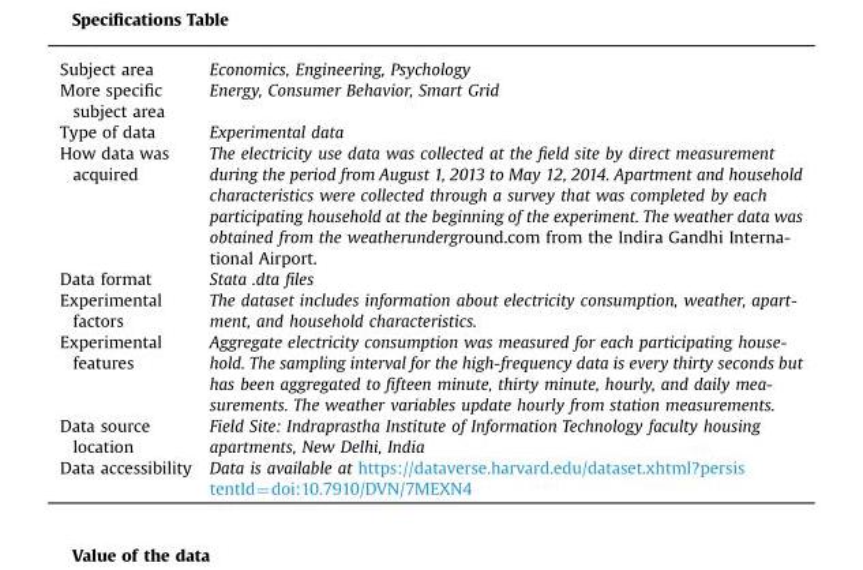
<table><thead><tr><td>Subject area</td><td>Economics, Engineering, Psychology</td></tr></thead><tbody><tr><td>More specific subject area</td><td>Energy, Consumer Behavior, Smart Grid</td></tr><tr><td>Type of data</td><td>Experimental data</td></tr><tr><td>How data was acquired</td><td>The electricity use data was collected at the field site by direct measurement during the period from August 1, 2013 to May 12, 2014. Apartment and household characteristics were collected through a survey that was completed by each participating household at the beginning of the experiment. The weather data was obtained from the weatherunderground.com from the Indira Gandhi Interna- tional Airport.</td></tr><tr><td>Data format</td><td>Stata .dta files</td></tr><tr><td>Experimental factors</td><td>The dataset includes information about electricity consumption, weather, apart- ment, and household characteristics.</td></tr><tr><td>Experimental features</td><td>Aggregate electricity consumption was measured for each participating house- hold. The sampling interval for the high-frequency data is every thirty seconds but has been aggregated to fifteen minute, thirty minute, hourly, and daily mea- surements. The weather variables update hourly from station measurements.</td></tr><tr><td>Data source location</td><td>Field Site: Indraprastha Institute of Information Technology faculty housing apartments, New Delhi, India</td></tr><tr><td>Data accessibility</td><td>Data is available at https://dataverse.harvard.edu/dataset.xhtml?persis tentId=doi:10.7910/DVN/7MEXN4</td></tr></tbody></table>